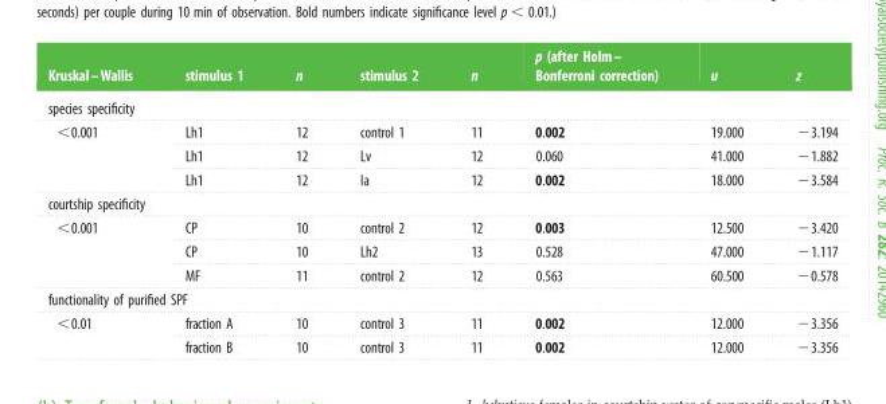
<table><thead><tr><td>Kruskal–Wallis</td><td>stimulus 1</td><td>n</td><td>stimulus 2</td><td>n</td><td>p (after Holm– Bonferroni correction)</td><td>u</td><td>z</td></tr></thead><tbody><tr><td colspan="8">species specificity</td></tr><tr><td rowspan="3">&lt;0.001</td><td>Lh1</td><td>12</td><td>control 1</td><td>11</td><td>0.002</td><td>19.000</td><td>−3.194</td></tr><tr><td>Lh1</td><td>12</td><td>Lv</td><td>12</td><td>0.060</td><td>41.000</td><td>−1.882</td></tr><tr><td>Lh1</td><td>12</td><td>Ia</td><td>12</td><td>0.002</td><td>18.000</td><td>−3.584</td></tr><tr><td colspan="8">courtship specificity</td></tr><tr><td rowspan="3">&lt;0.001</td><td>CP</td><td>10</td><td>control 2</td><td>12</td><td>0.003</td><td>12.500</td><td>−3.420</td></tr><tr><td>CP</td><td>10</td><td>Lh2</td><td>13</td><td>0.528</td><td>47.000</td><td>−1.117</td></tr><tr><td>MF</td><td>11</td><td>control 2</td><td>12</td><td>0.563</td><td>60.500</td><td>−0.578</td></tr><tr><td colspan="8">functionality of purified SPF</td></tr><tr><td rowspan="2">&lt;0.01</td><td>fraction A</td><td>10</td><td>control 3</td><td>11</td><td>0.002</td><td>12.000</td><td>−3.356</td></tr><tr><td>fraction B</td><td>10</td><td>control 3</td><td>11</td><td>0.002</td><td>12.000</td><td>−3.356</td></tr></tbody></table>